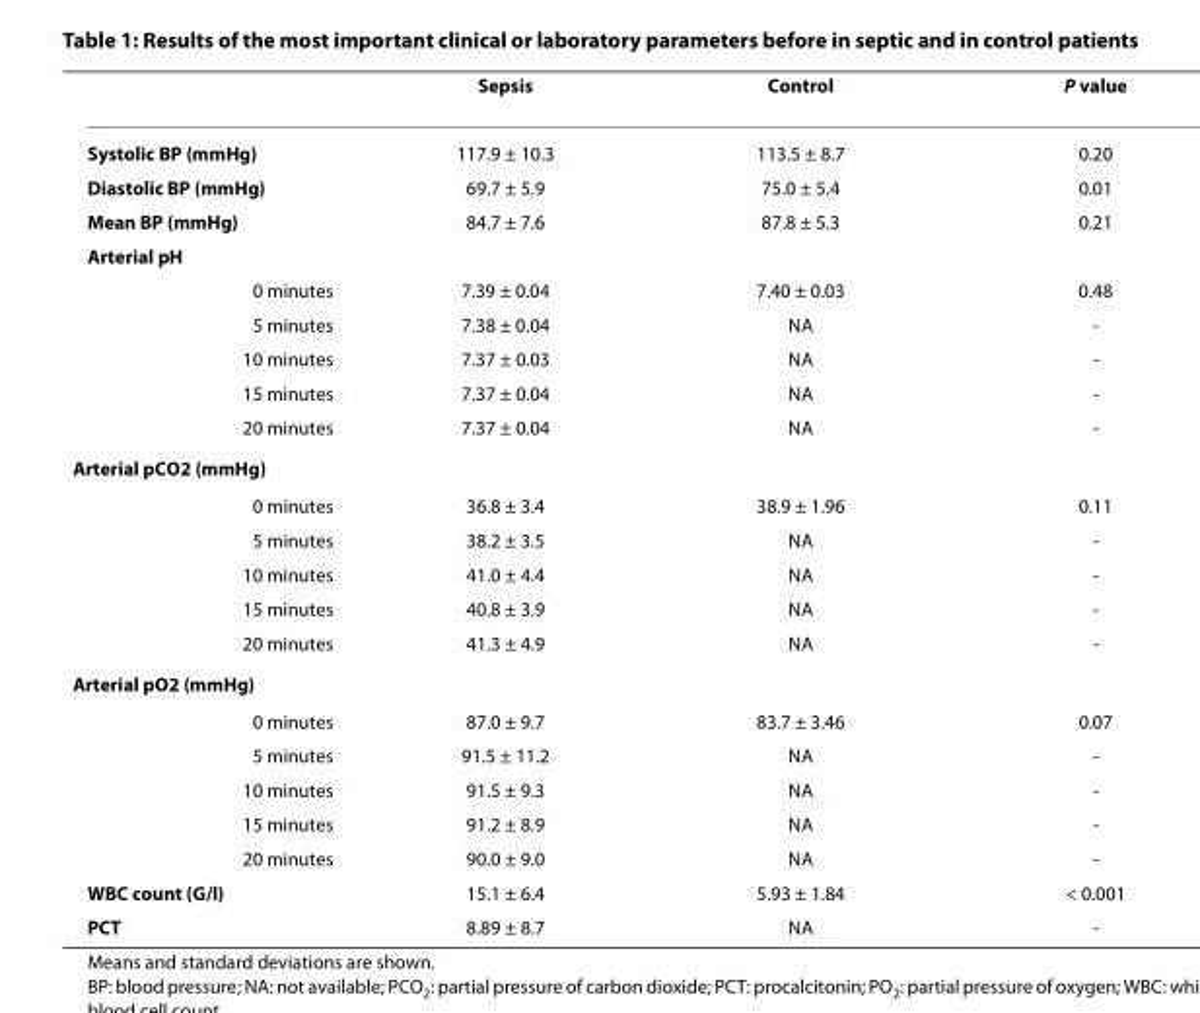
<table><thead><tr><td></td><td>Sepsis</td><td>Control</td><td>P value</td></tr></thead><tbody><tr><td>Systolic BP (mmHg)</td><td>117.9 ± 10.3</td><td>113.5 ± 8.7</td><td>0.20</td></tr><tr><td>Diastolic BP (mmHg)</td><td>69.7 ± 5.9</td><td>75.0 ± 5.4</td><td>0.01</td></tr><tr><td>Mean BP (mmHg)</td><td>84.7 ± 7.6</td><td>87.8 ± 5.3</td><td>0.21</td></tr><tr><td colspan="4">Arterial pH</td></tr><tr><td>0 minutes</td><td>7.39 ± 0.04</td><td>7.40 ± 0.03</td><td>0.48</td></tr><tr><td>5 minutes</td><td>7.38 ± 0.04</td><td>NA</td><td>-</td></tr><tr><td>10 minutes</td><td>7.37 ± 0.03</td><td>NA</td><td>-</td></tr><tr><td>15 minutes</td><td>7.37 ± 0.04</td><td>NA</td><td>-</td></tr><tr><td>20 minutes</td><td>7.37 ± 0.04</td><td>NA</td><td>-</td></tr><tr><td colspan="4">Arterial pCO<sub>2</sub> (mmHg)</td></tr><tr><td>0 minutes</td><td>36.8 ± 3.4</td><td>38.9 ± 1.96</td><td>0.11</td></tr><tr><td>5 minutes</td><td>38.2 ± 3.5</td><td>NA</td><td>-</td></tr><tr><td>10 minutes</td><td>41.0 ± 4.4</td><td>NA</td><td>-</td></tr><tr><td>15 minutes</td><td>40.8 ± 3.9</td><td>NA</td><td>-</td></tr><tr><td>20 minutes</td><td>41.3 ± 4.9</td><td>NA</td><td>-</td></tr><tr><td colspan="4">Arterial pO<sub>2</sub> (mmHg)</td></tr><tr><td>0 minutes</td><td>87.0 ± 9.7</td><td>83.7 ± 3.46</td><td>0.07</td></tr><tr><td>5 minutes</td><td>91.5 ± 11.2</td><td>NA</td><td>-</td></tr><tr><td>10 minutes</td><td>91.5 ± 9.3</td><td>NA</td><td>-</td></tr><tr><td>15 minutes</td><td>91.2 ± 8.9</td><td>NA</td><td>-</td></tr><tr><td>20 minutes</td><td>90.0 ± 9.0</td><td>NA</td><td>-</td></tr><tr><td>WBC count (G/l)</td><td>15.1 ± 6.4</td><td>5.93 ± 1.84</td><td>&lt; 0.001</td></tr><tr><td>PCT</td><td>8.89 ± 8.7</td><td>NA</td><td>-</td></tr></tbody></table>